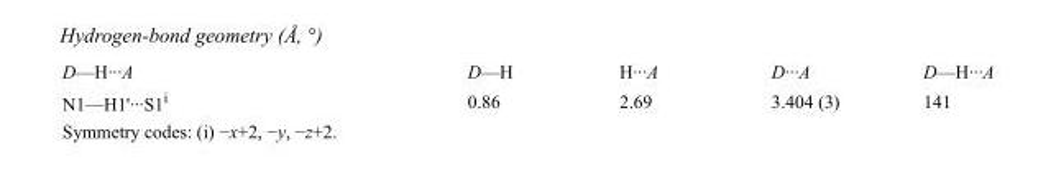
<table><tbody><tr><td>D—H···A</td><td>D—H</td><td>H···A</td><td>D···A</td><td>D—H···A</td></tr><tr><td>N1—H1&#x27;···S1<sup>i</sup></td><td>0.86</td><td>2.69</td><td>3.404 (3)</td><td>141</td></tr></tbody></table>